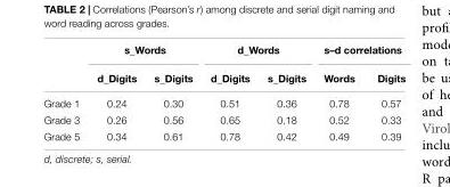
<table><thead><tr><td rowspan="2"></td><td colspan="2">s_Words</td><td colspan="2">d_Words</td><td colspan="2">s–d correlations</td></tr><tr><td>d_Digits</td><td>s_Digits</td><td>d_Digits</td><td>s_Digits</td><td>Words</td><td>Digits</td></tr></thead><tbody><tr><td>Grade 1</td><td>0.24</td><td>0.30</td><td>0.51</td><td>0.36</td><td>0.78</td><td>0.57</td></tr><tr><td>Grade 3</td><td>0.26</td><td>0.56</td><td>0.65</td><td>0.18</td><td>0.52</td><td>0.33</td></tr><tr><td>Grade 5</td><td>0.34</td><td>0.61</td><td>0.78</td><td>0.42</td><td>0.49</td><td>0.39</td></tr></tbody></table>